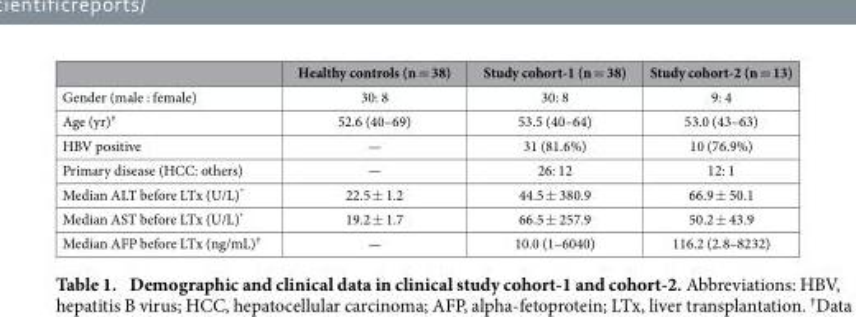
<table><thead><tr><td></td><td>Healthy controls (n = 38)</td><td>Study cohort-1 (n = 38)</td><td>Study cohort-2 (n = 13)</td></tr></thead><tbody><tr><td>Gender (male : female)</td><td>30: 8</td><td>30: 8</td><td>9: 4</td></tr><tr><td>Age (yr)†</td><td>52.6 (40–69)</td><td>53.5 (40–64)</td><td>53.0 (43–63)</td></tr><tr><td>HBV positive</td><td>—</td><td>31 (81.6%)</td><td>10 (76.9%)</td></tr><tr><td>Primary disease (HCC: others)</td><td>—</td><td>26: 12</td><td>12: 1</td></tr><tr><td>Median ALT before LTx (U/L)*</td><td>22.5 ± 1.2</td><td>44.5 ± 380.9</td><td>66.9 ± 50.1</td></tr><tr><td>Median AST before LTx (U/L)*</td><td>19.2 ± 1.7</td><td>66.5 ± 257.9</td><td>50.2 ± 43.9</td></tr><tr><td>Median AFP before LTx (ng/mL)†</td><td>—</td><td>10.0 (1–6040)</td><td>116.2 (2.8–8232)</td></tr></tbody></table>